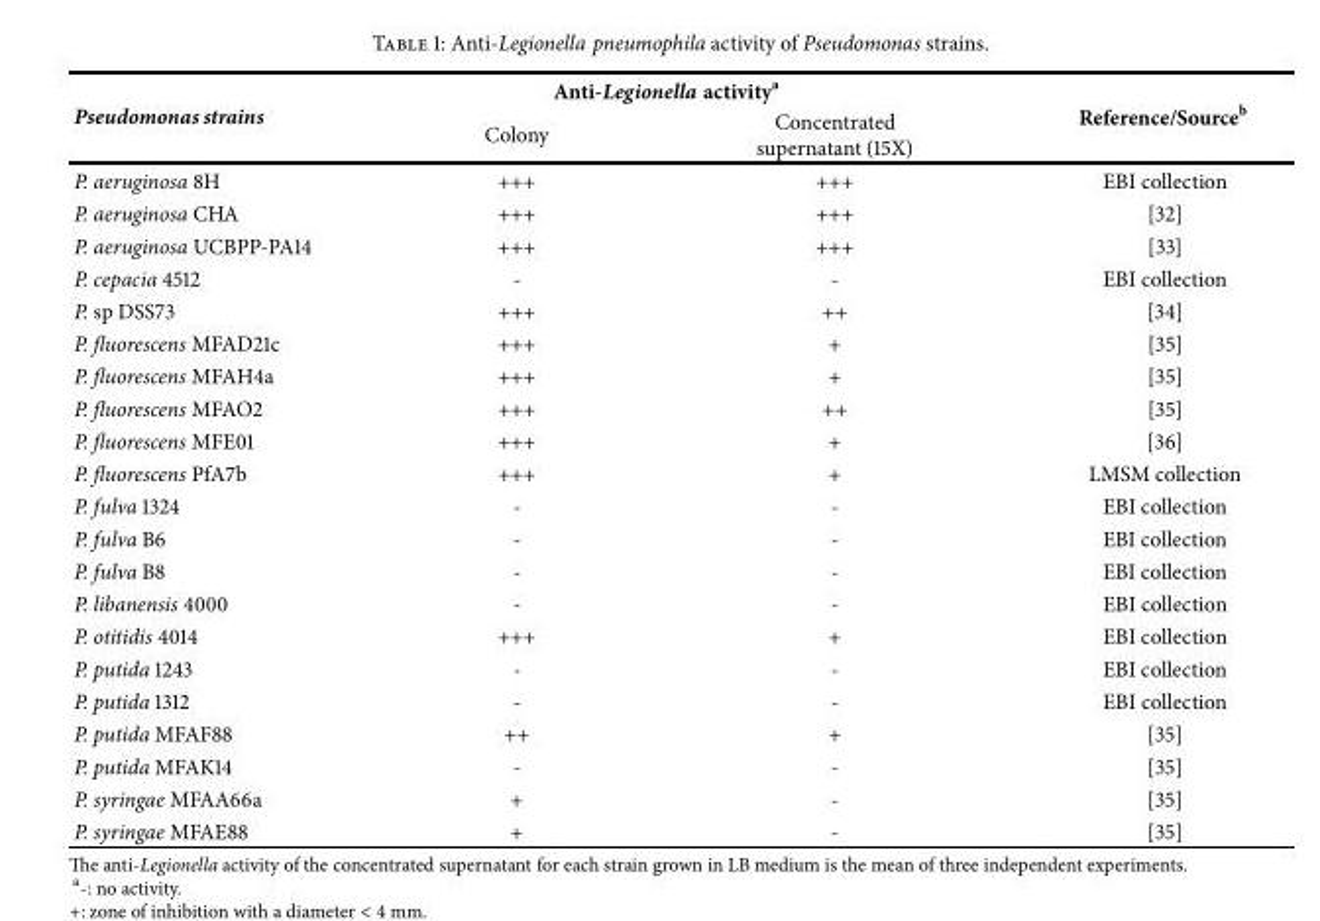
<table><thead><tr><td rowspan="2">Pseudomonas strains</td><td colspan="2">Anti-Legionella activity<sup>a</sup></td><td rowspan="2">Reference/Source<sup>b</sup></td></tr><tr><td>Colony</td><td>Concentrated supernatant (15X)</td></tr></thead><tbody><tr><td>P. aeruginosa 8H</td><td>+++</td><td>+++</td><td>EBI collection</td></tr><tr><td>P. aeruginosa CHA</td><td>+++</td><td>+++</td><td>[32]</td></tr><tr><td>P. aeruginosa UCBPP-PA14</td><td>+++</td><td>+++</td><td>[33]</td></tr><tr><td>P. cepacia 4512</td><td>-</td><td>-</td><td>EBI collection</td></tr><tr><td>P. sp DSS73</td><td>+++</td><td>++</td><td>[34]</td></tr><tr><td>P. fluorescens MFAD21c</td><td>+++</td><td>+</td><td>[35]</td></tr><tr><td>P. fluorescens MFAH4a</td><td>+++</td><td>+</td><td>[35]</td></tr><tr><td>P. fluorescens MFAO2</td><td>+++</td><td>++</td><td>[35]</td></tr><tr><td>P. fluorescens MFE01</td><td>+++</td><td>+</td><td>[36]</td></tr><tr><td>P. fluorescens PfA7b</td><td>+++</td><td>+</td><td>LMSM collection</td></tr><tr><td>P. fulva 1324</td><td>-</td><td>-</td><td>EBI collection</td></tr><tr><td>P. fulva B6</td><td>-</td><td>-</td><td>EBI collection</td></tr><tr><td>P. fulva B8</td><td>-</td><td>-</td><td>EBI collection</td></tr><tr><td>P. libanensis 4000</td><td>-</td><td>-</td><td>EBI collection</td></tr><tr><td>P. otitidis 4014</td><td>+++</td><td>+</td><td>EBI collection</td></tr><tr><td>P. putida 1243</td><td>-</td><td>-</td><td>EBI collection</td></tr><tr><td>P. putida 1312</td><td>-</td><td>-</td><td>EBI collection</td></tr><tr><td>P. putida MFAF88</td><td>++</td><td>+</td><td>[35]</td></tr><tr><td>P. putida MFAK14</td><td>-</td><td>-</td><td>[35]</td></tr><tr><td>P. syringae MFAA66a</td><td>+</td><td>-</td><td>[35]</td></tr><tr><td>P. syringae MFAE88</td><td>+</td><td>-</td><td>[35]</td></tr></tbody></table>